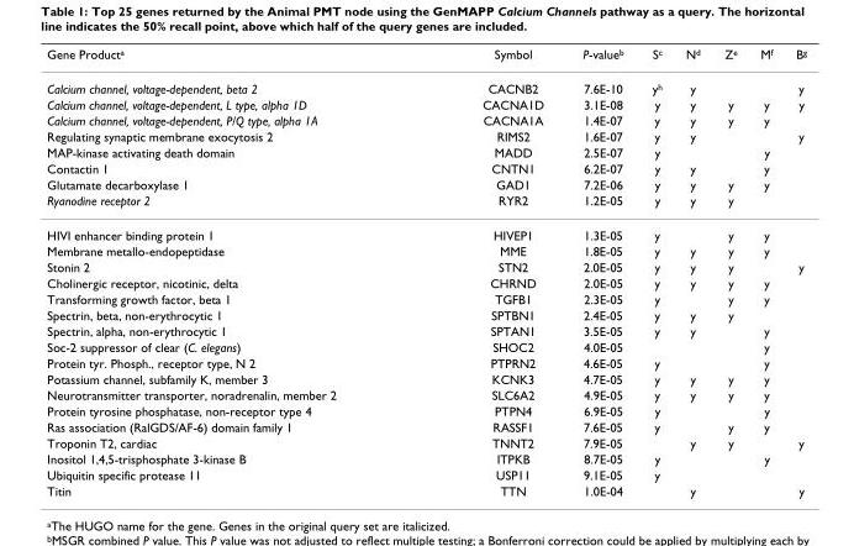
<table><thead><tr><td>Gene Producta</td><td>Symbol</td><td>P-valueb</td><td>Sc</td><td>Nd</td><td>Ze</td><td>Mf</td><td>Bg</td></tr></thead><tbody><tr><td>Calcium channel, voltage-dependent, beta 2</td><td>CACNB2</td><td>7.6E-10</td><td>yh</td><td>y</td><td></td><td></td><td>y</td></tr><tr><td>Calcium channel, voltage-dependent, L type, alpha 1D</td><td>CACNA1D</td><td>3.1E-08</td><td>y</td><td>y</td><td>y</td><td>y</td><td>y</td></tr><tr><td>Calcium channel, voltage-dependent, P/Q type, alpha 1A</td><td>CACNA1A</td><td>1.4E-07</td><td>y</td><td>y</td><td>y</td><td>y</td><td></td></tr><tr><td>Regulating synaptic membrane exocytosis 2</td><td>RIMS2</td><td>1.6E-07</td><td>y</td><td>y</td><td></td><td></td><td>y</td></tr><tr><td>MAP-kinase activating death domain</td><td>MADD</td><td>2.5E-07</td><td>y</td><td></td><td></td><td>y</td><td></td></tr><tr><td>Contactin 1</td><td>CNTN1</td><td>6.2E-07</td><td>y</td><td>y</td><td></td><td>y</td><td></td></tr><tr><td>Glutamate decarboxylase 1</td><td>GAD1</td><td>7.2E-06</td><td>y</td><td>y</td><td>y</td><td>y</td><td></td></tr><tr><td>Ryanodine receptor 2</td><td>RYR2</td><td>1.2E-05</td><td>y</td><td>y</td><td>y</td><td></td><td></td></tr><tr><td>HIVI enhancer binding protein 1</td><td>HIVEP1</td><td>1.3E-05</td><td>y</td><td></td><td>y</td><td>y</td><td></td></tr><tr><td>Membrane metallo-endopeptidase</td><td>MME</td><td>1.8E-05</td><td>y</td><td>y</td><td>y</td><td>y</td><td></td></tr><tr><td>Stonin 2</td><td>STN2</td><td>2.0E-05</td><td>y</td><td>y</td><td>y</td><td></td><td>y</td></tr><tr><td>Cholinergic receptor, nicotinic, delta</td><td>CHRND</td><td>2.0E-05</td><td>y</td><td>y</td><td>y</td><td>y</td><td></td></tr><tr><td>Transforming growth factor, beta 1</td><td>TGFB1</td><td>2.3E-05</td><td>y</td><td></td><td>y</td><td>y</td><td></td></tr><tr><td>Spectrin, beta, non-erythrocytic 1</td><td>SPTBN1</td><td>2.4E-05</td><td>y</td><td>y</td><td>y</td><td></td><td></td></tr><tr><td>Spectrin, alpha, non-erythrocytic 1</td><td>SPTAN1</td><td>3.5E-05</td><td>y</td><td>y</td><td></td><td>y</td><td></td></tr><tr><td>Soc-2 suppressor of clear (C. elegans)</td><td>SHOC2</td><td>4.0E-05</td><td></td><td></td><td></td><td>y</td><td></td></tr><tr><td>Protein tyr. Phosph., receptor type, N 2</td><td>PTPRN2</td><td>4.6E-05</td><td>y</td><td></td><td></td><td>y</td><td></td></tr><tr><td>Potassium channel, subfamily K, member 3</td><td>KCNK3</td><td>4.7E-05</td><td>y</td><td>y</td><td>y</td><td>y</td><td></td></tr><tr><td>Neurotransmitter transporter, noradrenalin, member 2</td><td>SLC6A2</td><td>4.9E-05</td><td>y</td><td>y</td><td>y</td><td>y</td><td></td></tr><tr><td>Protein tyrosine phosphatase, non-receptor type 4</td><td>PTPN4</td><td>6.9E-05</td><td>y</td><td></td><td></td><td>y</td><td></td></tr><tr><td>Ras association (RalGDS/AF-6) domain family 1</td><td>RASSF1</td><td>7.6E-05</td><td>y</td><td></td><td>y</td><td>y</td><td></td></tr><tr><td>Troponin T2, cardiac</td><td>TNNT2</td><td>7.9E-05</td><td></td><td>y</td><td>y</td><td></td><td>y</td></tr><tr><td>Inositol 1,4,5-trisphosphate 3-kinase B</td><td>ITPKB</td><td>8.7E-05</td><td>y</td><td></td><td></td><td>y</td><td></td></tr><tr><td>Ubiquitin specific protease 11</td><td>USP11</td><td>9.1E-05</td><td>y</td><td></td><td></td><td></td><td></td></tr><tr><td>Titin</td><td>TTN</td><td>1.0E-04</td><td></td><td>y</td><td></td><td></td><td>y</td></tr></tbody></table>